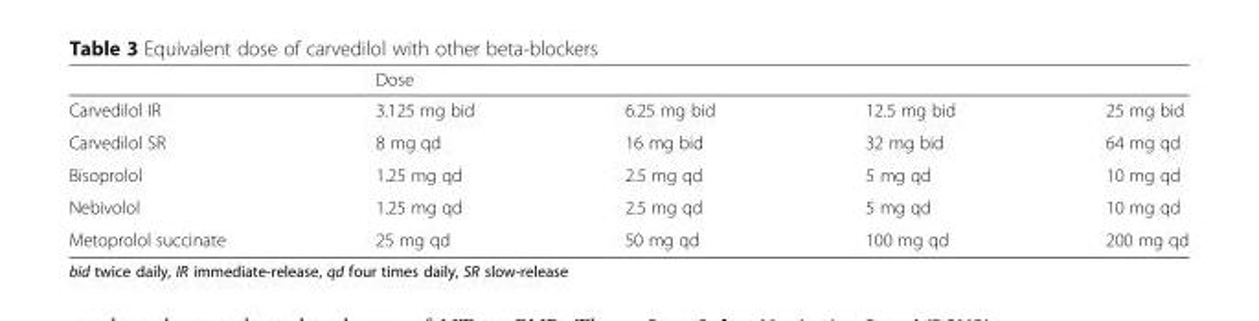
<table><thead><tr><td rowspan="2">Carvedilol IR</td><td colspan="4">Dose</td></tr><tr><td>3.125 mg bid</td><td>6.25 mg bid</td><td>12.5 mg bid</td><td>25 mg bid</td></tr></thead><tbody><tr><td>Carvedilol SR</td><td>8 mg qd</td><td>16 mg bid</td><td>32 mg bid</td><td>64 mg qd</td></tr><tr><td>Bisoprolol</td><td>1.25 mg qd</td><td>2.5 mg qd</td><td>5 mg qd</td><td>10 mg qd</td></tr><tr><td>Nebivolol</td><td>1.25 mg qd</td><td>2.5 mg qd</td><td>5 mg qd</td><td>10 mg qd</td></tr><tr><td>Metoprolol succinate</td><td>25 mg qd</td><td>50 mg qd</td><td>100 mg qd</td><td>200 mg qd</td></tr></tbody></table>